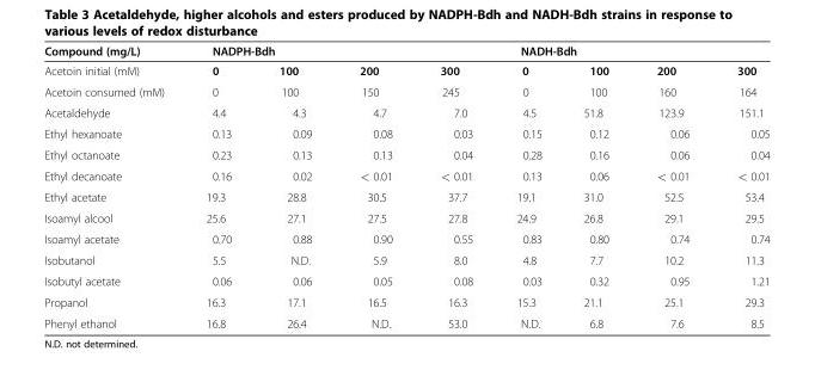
<table><thead><tr><td rowspan="2">Compound (mg/L) Acetoin initial (mM)</td><td colspan="4">NADPH-Bdh</td><td colspan="4">NADH-Bdh</td></tr><tr><td>0</td><td>100</td><td>200</td><td>300</td><td>0</td><td>100</td><td>200</td><td>300</td></tr></thead><tbody><tr><td>Acetoin consumed (mM)</td><td>0</td><td>100</td><td>150</td><td>245</td><td>0</td><td>100</td><td>160</td><td>164</td></tr><tr><td>Acetaldehyde</td><td>4.4</td><td>4.3</td><td>4.7</td><td>7.0</td><td>4.5</td><td>51.8</td><td>123.9</td><td>151.1</td></tr><tr><td>Ethyl hexanoate</td><td>0.13</td><td>0.09</td><td>0.08</td><td>0.03</td><td>0.15</td><td>0.12</td><td>0.06</td><td>0.05</td></tr><tr><td>Ethyl octanoate</td><td>0.23</td><td>0.13</td><td>0.13</td><td>0.04</td><td>0.28</td><td>0.16</td><td>0.06</td><td>0.04</td></tr><tr><td>Ethyl decanoate</td><td>0.16</td><td>0.02</td><td>&lt; 0.01</td><td>&lt; 0.01</td><td>0.13</td><td>0.06</td><td>&lt; 0.01</td><td>&lt; 0.01</td></tr><tr><td>Ethyl acetate</td><td>19.3</td><td>28.8</td><td>30.5</td><td>37.7</td><td>19.1</td><td>31.0</td><td>52.5</td><td>53.4</td></tr><tr><td>Isoamyl alcool</td><td>25.6</td><td>27.1</td><td>27.5</td><td>27.8</td><td>24.9</td><td>26.8</td><td>29.1</td><td>29.5</td></tr><tr><td>Isoamyl acetate</td><td>0.70</td><td>0.88</td><td>0.90</td><td>0.55</td><td>0.83</td><td>0.80</td><td>0.74</td><td>0.74</td></tr><tr><td>Isobutanol</td><td>5.5</td><td>N.D.</td><td>5.9</td><td>8.0</td><td>4.8</td><td>7.7</td><td>10.2</td><td>11.3</td></tr><tr><td>Isobutyl acetate</td><td>0.06</td><td>0.06</td><td>0.05</td><td>0.08</td><td>0.03</td><td>0.32</td><td>0.95</td><td>1.21</td></tr><tr><td>Propanol</td><td>16.3</td><td>17.1</td><td>16.5</td><td>16.3</td><td>15.3</td><td>21.1</td><td>25.1</td><td>29.3</td></tr><tr><td>Phenyl ethanol</td><td>16.8</td><td>26.4</td><td>N.D.</td><td>53.0</td><td>N.D.</td><td>6.8</td><td>7.6</td><td>8.5</td></tr></tbody></table>